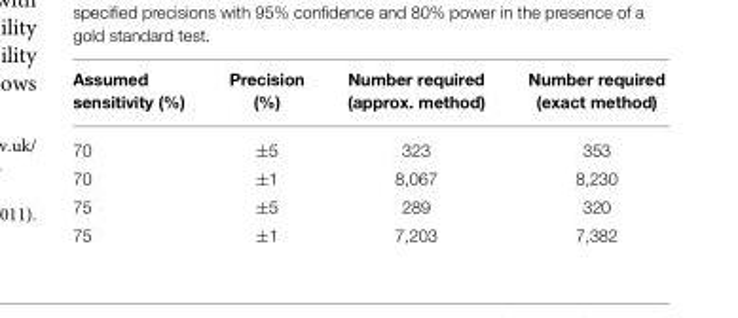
<table><thead><tr><td>Assumed sensitivity (%)</td><td>Precision (%)</td><td>Number required (approx. method)</td><td>Number required (exact method)</td></tr></thead><tbody><tr><td>70</td><td>±5</td><td>323</td><td>353</td></tr><tr><td>70</td><td>±1</td><td>8,067</td><td>8,230</td></tr><tr><td>75</td><td>±5</td><td>289</td><td>320</td></tr><tr><td>75</td><td>±1</td><td>7,203</td><td>7,382</td></tr></tbody></table>